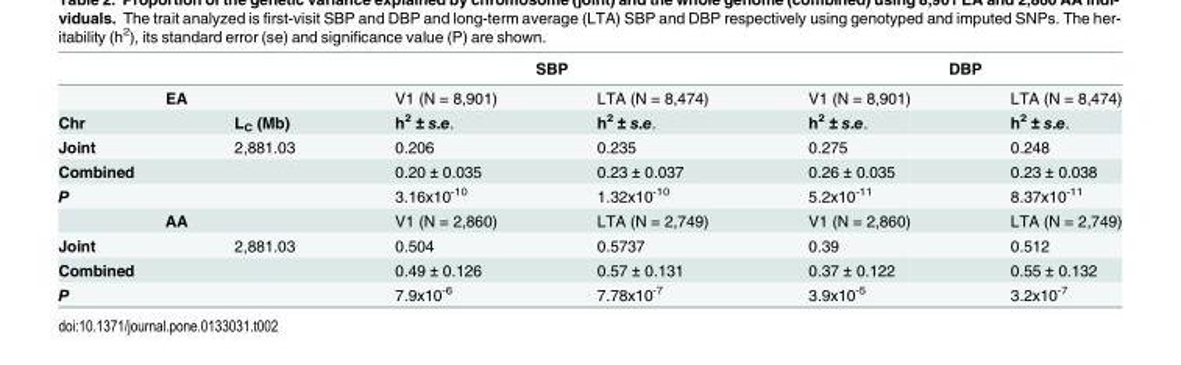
<table><thead><tr><td></td><td></td><td colspan="2">SBP</td><td colspan="2">DBP</td></tr><tr><td colspan="2">EA</td><td>V1 (N = 8,901)</td><td>LTA (N = 8,474)</td><td>V1 (N = 8,901)</td><td>LTA (N = 8,474)</td></tr></thead><tbody><tr><td>Chr</td><td>L<sub>C</sub> (Mb)</td><td>h<sup>2</sup> ± s.e.</td><td>h<sup>2</sup> ± s.e.</td><td>h<sup>2</sup> ± s.e.</td><td>h<sup>2</sup> ± s.e.</td></tr><tr><td>Joint</td><td>2,881.03</td><td>0.206</td><td>0.235</td><td>0.275</td><td>0.248</td></tr><tr><td>Combined</td><td></td><td>0.20 ± 0.035</td><td>0.23 ± 0.037</td><td>0.26 ± 0.035</td><td>0.23 ± 0.038</td></tr><tr><td>P</td><td></td><td>3.16x10<sup>-10</sup></td><td>1.32x10<sup>-10</sup></td><td>5.2x10<sup>-11</sup></td><td>8.37x10<sup>-11</sup></td></tr><tr><td colspan="2">AA</td><td>V1 (N = 2,860)</td><td>LTA (N = 2,749)</td><td>V1 (N = 2,860)</td><td>LTA (N = 2,749)</td></tr><tr><td>Joint</td><td>2,881.03</td><td>0.504</td><td>0.5737</td><td>0.39</td><td>0.512</td></tr><tr><td>Combined</td><td></td><td>0.49 ± 0.126</td><td>0.57 ± 0.131</td><td>0.37 ± 0.122</td><td>0.55 ± 0.132</td></tr><tr><td>P</td><td></td><td>7.9x10<sup>-6</sup></td><td>7.78x10<sup>-7</sup></td><td>3.9x10<sup>-5</sup></td><td>3.2x10<sup>-7</sup></td></tr></tbody></table>